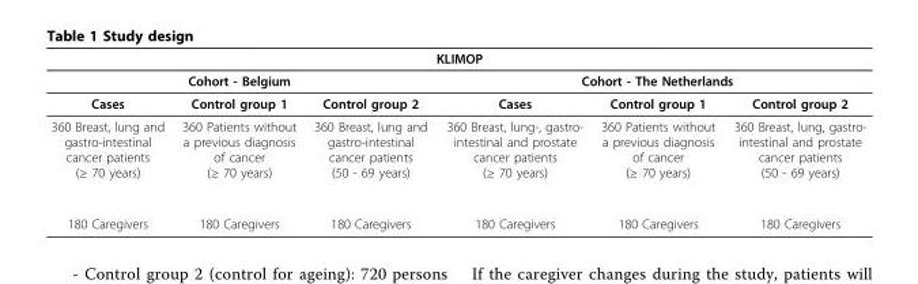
<table><thead><tr><td colspan="6">KLIMOP</td></tr><tr><td colspan="3">Cohort - Belgium</td><td colspan="3">Cohort - The Netherlands</td></tr><tr><td>Cases</td><td>Control group 1</td><td>Control group 2</td><td>Cases</td><td>Control group 1</td><td>Control group 2</td></tr></thead><tbody><tr><td>360 Breast, lung and gastro-intestinal cancer patients (≥ 70 years)</td><td>360 Patients without a previous diagnosis of cancer (≥ 70 years)</td><td>360 Breast, lung and gastro-intestinal cancer patients (50 - 69 years)</td><td>360 Breast, lung-, gastro- intestinal and prostate cancer patients (≥ 70 years)</td><td>360 Patients without a previous diagnosis of cancer (≥ 70 years)</td><td>360 Breast, lung, gastro- intestinal and prostate cancer patients (50 - 69 years)</td></tr><tr><td>180 Caregivers</td><td>180 Caregivers</td><td>180 Caregivers</td><td>180 Caregivers</td><td>180 Caregivers</td><td>180 Caregivers</td></tr></tbody></table>